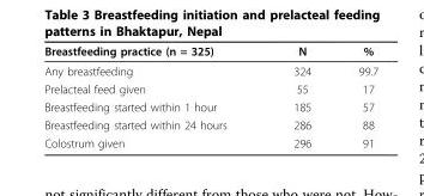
<table><thead><tr><td>Breastfeeding practice (n = 325)</td><td>N</td><td>%</td></tr></thead><tbody><tr><td>Any breastfeeding</td><td>324</td><td>99.7</td></tr><tr><td>Prelacteal feed given</td><td>55</td><td>17</td></tr><tr><td>Breastfeeding started within 1 hour</td><td>185</td><td>57</td></tr><tr><td>Breastfeeding started within 24 hours</td><td>286</td><td>88</td></tr><tr><td>Colostrum given</td><td>296</td><td>91</td></tr></tbody></table>